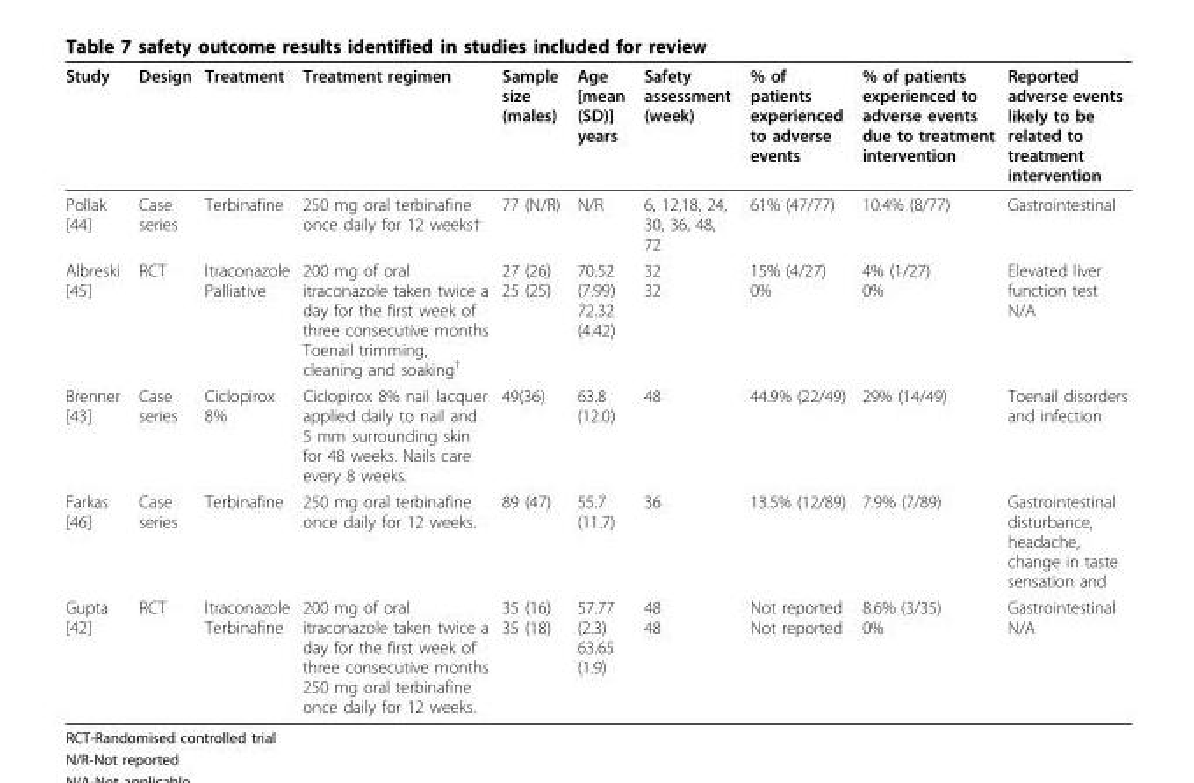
<table><thead><tr><td>Study</td><td>Design</td><td>Treatment</td><td>Treatment regimen</td><td>Sample size (males)</td><td>Age [mean (SD)] years</td><td>Safety assessment (week)</td><td>% of patients experienced to adverse events</td><td>% of patients experienced to adverse events due to treatment intervention</td><td>Reported adverse events likely to be related to treatment intervention</td></tr></thead><tbody><tr><td>Pollak [44]</td><td>Case series</td><td>Terbinafine</td><td>250 mg oral terbinafine once daily for 12 weeks†</td><td>77 (N/R)</td><td>N/R</td><td>6, 12,18, 24, 30, 36, 48, 72</td><td>61% (47/77)</td><td>10.4% (8/77)</td><td>Gastrointestinal</td></tr><tr><td>Albreski [45]</td><td>RCT</td><td>Itraconazole Palliative</td><td>200 mg of oral itraconazole taken twice a day for the first week of three consecutive months Toenail trimming, cleaning and soaking<sup>†</sup></td><td>27 (26) 25 (25)</td><td>70.52 (7.99) 72.32 (4.42)</td><td>32 32</td><td>15% (4/27) 0%</td><td>4% (1/27) 0%</td><td>Elevated liver function test N/A</td></tr><tr><td>Brenner [43]</td><td>Case series</td><td>Ciclopirox 8%</td><td>Ciclopirox 8% nail lacquer applied daily to nail and 5 mm surrounding skin for 48 weeks. Nails care every 8 weeks.</td><td>49(36)</td><td>63.8 (12.0)</td><td>48</td><td>44.9% (22/49)</td><td>29% (14/49)</td><td>Toenail disorders and infection</td></tr><tr><td>Farkas [46]</td><td>Case series</td><td>Terbinafine</td><td>250 mg oral terbinafine once daily for 12 weeks.</td><td>89 (47)</td><td>55.7 (11.7)</td><td>36</td><td>13.5% (12/89)</td><td>7.9% (7/89)</td><td>Gastrointestinal disturbance, headache, change in taste sensation and</td></tr><tr><td>Gupta [42]</td><td>RCT</td><td>Itraconazole Terbinafine</td><td>200 mg of oral itraconazole taken twice a day for the first week of three consecutive months 250 mg oral terbinafine once daily for 12 weeks.</td><td>35 (16) 35 (18)</td><td>57.77 (2.3) 63.65 (1.9)</td><td>48 48</td><td>Not reported Not reported</td><td>8.6% (3/35) 0%</td><td>Gastrointestinal N/A</td></tr></tbody></table>